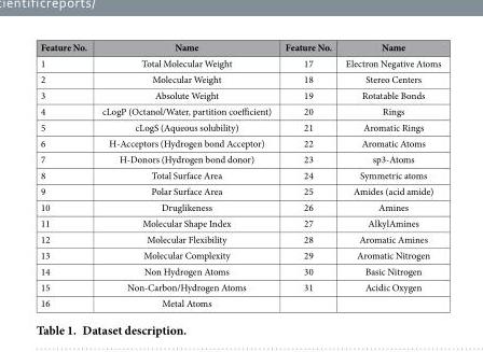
<table><thead><tr><td>Feature No.</td><td>Name</td><td>Feature No.</td><td>Name</td></tr></thead><tbody><tr><td>1</td><td>Total Molecular Weight</td><td>17</td><td>Electron Negative Atoms</td></tr><tr><td>2</td><td>Molecular Weight</td><td>18</td><td>Stereo Centers</td></tr><tr><td>3</td><td>Absolute Weight</td><td>19</td><td>Rotatable Bonds</td></tr><tr><td>4</td><td>cLogP (Octanol/Water, partition coefficient)</td><td>20</td><td>Rings</td></tr><tr><td>5</td><td>cLogS (Aqueous solubility)</td><td>21</td><td>Aromatic Rings</td></tr><tr><td>6</td><td>H-Acceptors (Hydrogen bond Acceptor)</td><td>22</td><td>Aromatic Atoms</td></tr><tr><td>7</td><td>H-Donors (Hydrogen bond donor)</td><td>23</td><td>sp3-Atoms</td></tr><tr><td>8</td><td>Total Surface Area</td><td>24</td><td>Symmetric atoms</td></tr><tr><td>9</td><td>Polar Surface Area</td><td>25</td><td>Amides (acid amide)</td></tr><tr><td>10</td><td>Druglikeness</td><td>26</td><td>Amines</td></tr><tr><td>11</td><td>Molecular Shape Index</td><td>27</td><td>AlkylAmines</td></tr><tr><td>12</td><td>Molecular Flexibility</td><td>28</td><td>Aromatic Amines</td></tr><tr><td>13</td><td>Molecular Complexity</td><td>29</td><td>Aromatic Nitrogen</td></tr><tr><td>14</td><td>Non Hydrogen Atoms</td><td>30</td><td>Basic Nitrogen</td></tr><tr><td>15</td><td>Non-Carbon/Hydrogen Atoms</td><td>31</td><td>Acidic Oxygen</td></tr><tr><td>16</td><td>Metal Atoms</td><td></td><td></td></tr></tbody></table>